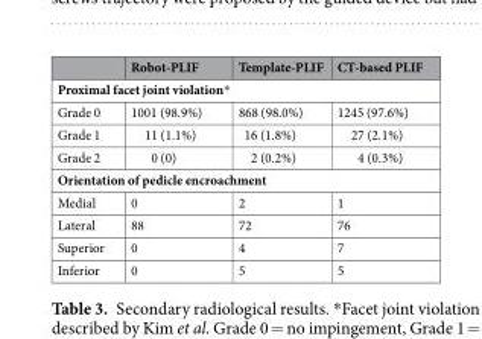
<table><thead><tr><td></td><td>Robot-PLIF</td><td>Template-PLIF</td><td>CT-based PLIF</td></tr></thead><tbody><tr><td colspan="4">Proximal facet joint violation*</td></tr><tr><td>Grade 0</td><td>1001 (98.9%)</td><td>868 (98.0%)</td><td>1245 (97.6%)</td></tr><tr><td>Grade 1</td><td>11 (1.1%)</td><td>16 (1.8%)</td><td>27 (2.1%)</td></tr><tr><td>Grade 2</td><td>0 (0)</td><td>2 (0.2%)</td><td>4 (0.3%)</td></tr><tr><td colspan="4">Orientation of pedicle encroachment</td></tr><tr><td>Medial</td><td>0</td><td>2</td><td>1</td></tr><tr><td>Lateral</td><td>88</td><td>72</td><td>76</td></tr><tr><td>Superior</td><td>0</td><td>4</td><td>7</td></tr><tr><td>Inferior</td><td>0</td><td>5</td><td>5</td></tr></tbody></table>